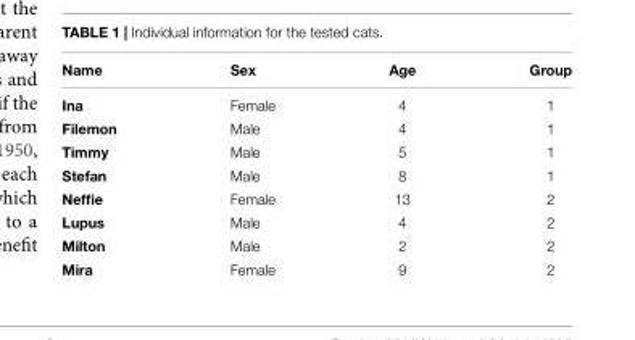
<table><thead><tr><td>Name</td><td>Sex</td><td>Age</td><td>Group</td></tr></thead><tbody><tr><td>Ina</td><td>Female</td><td>4</td><td>1</td></tr><tr><td>Filemon</td><td>Male</td><td>4</td><td>1</td></tr><tr><td>Timmy</td><td>Male</td><td>5</td><td>1</td></tr><tr><td>Stefan</td><td>Male</td><td>8</td><td>1</td></tr><tr><td>Neffie</td><td>Female</td><td>13</td><td>2</td></tr><tr><td>Lupus</td><td>Male</td><td>4</td><td>2</td></tr><tr><td>Milton</td><td>Male</td><td>2</td><td>2</td></tr><tr><td>Mira</td><td>Female</td><td>9</td><td>2</td></tr></tbody></table>